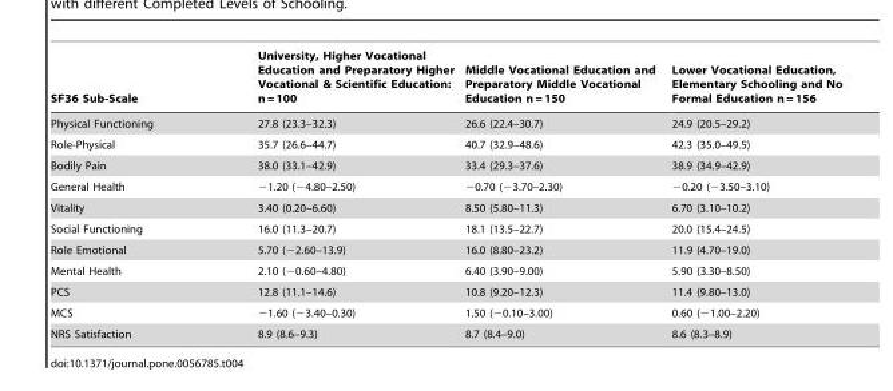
<table><thead><tr><td>SF36 Sub-Scale</td><td>University, Higher Vocational Education and Preparatory Higher Vocational &amp; Scientific Education: n = 100</td><td>Middle Vocational Education and Preparatory Middle Vocational Education n = 150</td><td>Lower Vocational Education, Elementary Schooling and No Formal Education n = 156</td></tr></thead><tbody><tr><td>Physical Functioning</td><td>27.8 (23.3–32.3)</td><td>26.6 (22.4–30.7)</td><td>24.9 (20.5–29.2)</td></tr><tr><td>Role-Physical</td><td>35.7 (26.6–44.7)</td><td>40.7 (32.9–48.6)</td><td>42.3 (35.0–49.5)</td></tr><tr><td>Bodily Pain</td><td>38.0 (33.1–42.9)</td><td>33.4 (29.3–37.6)</td><td>38.9 (34.9–42.9)</td></tr><tr><td>General Health</td><td>−1.20 (−4.80–2.50)</td><td>−0.70 (−3.70–2.30)</td><td>−0.20 (−3.50–3.10)</td></tr><tr><td>Vitality</td><td>3.40 (0.20–6.60)</td><td>8.50 (5.80–11.3)</td><td>6.70 (3.10–10.2)</td></tr><tr><td>Social Functioning</td><td>16.0 (11.3–20.7)</td><td>18.1 (13.5–22.7)</td><td>20.0 (15.4–24.5)</td></tr><tr><td>Role Emotional</td><td>5.70 (−2.60–13.9)</td><td>16.0 (8.80–23.2)</td><td>11.9 (4.70–19.0)</td></tr><tr><td>Mental Health</td><td>2.10 (−0.60–4.80)</td><td>6.40 (3.90–9.00)</td><td>5.90 (3.30–8.50)</td></tr><tr><td>PCS</td><td>12.8 (11.1–14.6)</td><td>10.8 (9.20–12.3)</td><td>11.4 (9.80–13.0)</td></tr><tr><td>MCS</td><td>−1.60 (−3.40–0.30)</td><td>1.50 (−0.10–3.00)</td><td>0.60 (−1.00–2.20)</td></tr><tr><td>NRS Satisfaction</td><td>8.9 (8.6–9.3)</td><td>8.7 (8.4–9.0)</td><td>8.6 (8.3–8.9)</td></tr></tbody></table>